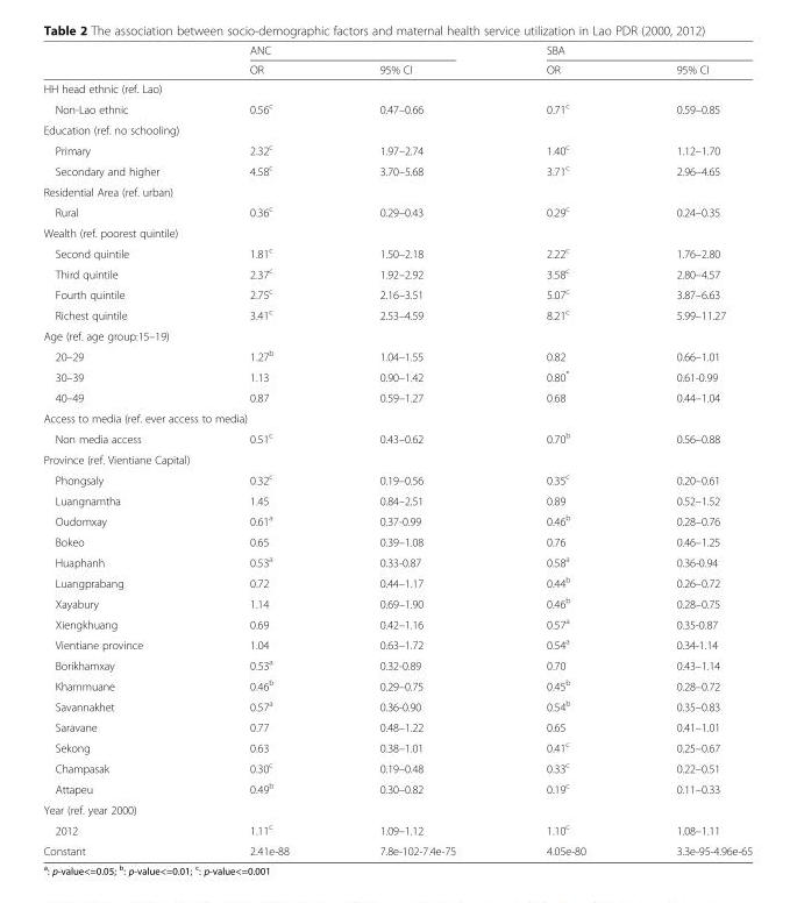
<table><thead><tr><td rowspan="2"></td><td colspan="2">ANC</td><td colspan="2">SBA</td></tr><tr><td>OR</td><td>95% CI</td><td>OR</td><td>95% CI</td></tr></thead><tbody><tr><td colspan="5">HH head ethnic (ref. Lao)</td></tr><tr><td>Non-Lao ethnic</td><td>0.56<sup>c</sup></td><td>0.47–0.66</td><td>0.71<sup>c</sup></td><td>0.59–0.85</td></tr><tr><td colspan="5">Education (ref. no schooling)</td></tr><tr><td>Primary</td><td>2.32<sup>c</sup></td><td>1.97–2.74</td><td>1.40<sup>c</sup></td><td>1.12–1.70</td></tr><tr><td>Secondary and higher</td><td>4.58<sup>c</sup></td><td>3.70–5.68</td><td>3.71<sup>c</sup></td><td>2.96–4.65</td></tr><tr><td colspan="5">Residential Area (ref. urban)</td></tr><tr><td>Rural</td><td>0.36<sup>c</sup></td><td>0.29–0.43</td><td>0.29<sup>c</sup></td><td>0.24–0.35</td></tr><tr><td colspan="5">Wealth (ref. poorest quintile)</td></tr><tr><td>Second quintile</td><td>1.81<sup>c</sup></td><td>1.50–2.18</td><td>2.22<sup>c</sup></td><td>1.76–2.80</td></tr><tr><td>Third quintile</td><td>2.37<sup>c</sup></td><td>1.92–2.92</td><td>3.58<sup>c</sup></td><td>2.80–4.57</td></tr><tr><td>Fourth quintile</td><td>2.75<sup>c</sup></td><td>2.16–3.51</td><td>5.07<sup>c</sup></td><td>3.87–6.63</td></tr><tr><td>Richest quintile</td><td>3.41<sup>c</sup></td><td>2.53–4.59</td><td>8.21<sup>c</sup></td><td>5.99–11.27</td></tr><tr><td colspan="5">Age (ref. age group:15–19)</td></tr><tr><td>20–29</td><td>1.27<sup>b</sup></td><td>1.04–1.55</td><td>0.82</td><td>0.66–1.01</td></tr><tr><td>30–39</td><td>1.13</td><td>0.90–1.42</td><td>0.80*</td><td>0.61-0.99</td></tr><tr><td>40–49</td><td>0.87</td><td>0.59–1.27</td><td>0.68</td><td>0.44–1.04</td></tr><tr><td colspan="5">Access to media (ref. ever access to media)</td></tr><tr><td>Non media access</td><td>0.51<sup>c</sup></td><td>0.43–0.62</td><td>0.70<sup>b</sup></td><td>0.56–0.88</td></tr><tr><td colspan="5">Province (ref. Vientiane Capital)</td></tr><tr><td>Phongsaly</td><td>0.32<sup>c</sup></td><td>0.19–0.56</td><td>0.35<sup>c</sup></td><td>0.20–0.61</td></tr><tr><td>Luangnamtha</td><td>1.45</td><td>0.84–2.51</td><td>0.89</td><td>0.52–1.52</td></tr><tr><td>Oudomxay</td><td>0.61<sup>a</sup></td><td>0.37-0.99</td><td>0.46<sup>b</sup></td><td>0.28–0.76</td></tr><tr><td>Bokeo</td><td>0.65</td><td>0.39–1.08</td><td>0.76</td><td>0.46–1.25</td></tr><tr><td>Huaphanh</td><td>0.53<sup>a</sup></td><td>0.33-0.87</td><td>0.58<sup>a</sup></td><td>0.36-0.94</td></tr><tr><td>Luangprabang</td><td>0.72</td><td>0.44–1.17</td><td>0.44<sup>b</sup></td><td>0.26–0.72</td></tr><tr><td>Xayabury</td><td>1.14</td><td>0.69–1.90</td><td>0.46<sup>b</sup></td><td>0.28–0.75</td></tr><tr><td>Xiengkhuang</td><td>0.69</td><td>0.42–1.16</td><td>0.57<sup>a</sup></td><td>0.35-0.87</td></tr><tr><td>Vientiane province</td><td>1.04</td><td>0.63–1.72</td><td>0.54<sup>a</sup></td><td>0.34-1.14</td></tr><tr><td>Borikhamxay</td><td>0.53<sup>a</sup></td><td>0.32-0.89</td><td>0.70</td><td>0.43–1.14</td></tr><tr><td>Khammuane</td><td>0.46<sup>b</sup></td><td>0.29–0.75</td><td>0.45<sup>b</sup></td><td>0.28–0.72</td></tr><tr><td>Savannakhet</td><td>0.57<sup>a</sup></td><td>0.36-0.90</td><td>0.54<sup>b</sup></td><td>0.35–0.83</td></tr><tr><td>Saravane</td><td>0.77</td><td>0.48–1.22</td><td>0.65</td><td>0.41–1.01</td></tr><tr><td>Sekong</td><td>0.63</td><td>0.38–1.01</td><td>0.41<sup>c</sup></td><td>0.25–0.67</td></tr><tr><td>Champasak</td><td>0.30<sup>c</sup></td><td>0.19–0.48</td><td>0.33<sup>c</sup></td><td>0.22–0.51</td></tr><tr><td>Attapeu</td><td>0.49<sup>b</sup></td><td>0.30–0.82</td><td>0.19<sup>c</sup></td><td>0.11–0.33</td></tr><tr><td colspan="5">Year (ref. year 2000)</td></tr><tr><td>2012</td><td>1.11<sup>c</sup></td><td>1.09–1.12</td><td>1.10<sup>c</sup></td><td>1.08–1.11</td></tr><tr><td>Constant</td><td>2.41e-88</td><td>7.8e-102-7.4e-75</td><td>4.05e-80</td><td>3.3e-95-4.96e-65</td></tr></tbody></table>